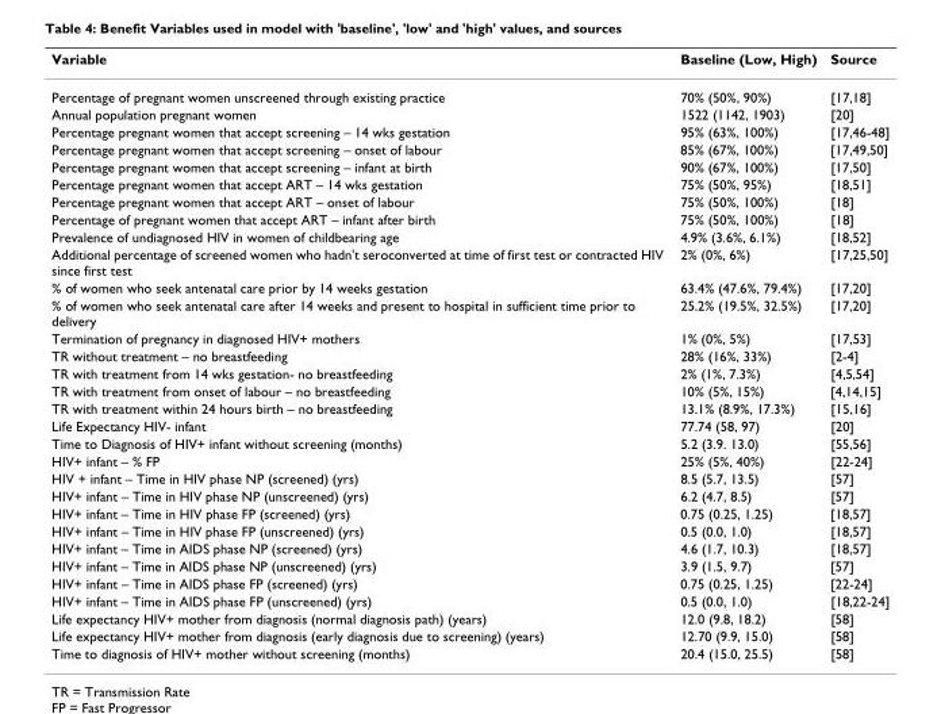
<table><thead><tr><td>Variable</td><td>Baseline (Low, High)</td><td>Source</td></tr></thead><tbody><tr><td>Percentage of pregnant women unscreened through existing practice</td><td>70% (50%, 90%)</td><td>[17,18]</td></tr><tr><td>Annual population pregnant women</td><td>1522 (1142, 1903)</td><td>[20]</td></tr><tr><td>Percentage pregnant women that accept screening – 14 wks gestation</td><td>95% (63%, 100%)</td><td>[17,46-48]</td></tr><tr><td>Percentage pregnant women that accept screening – onset of labour</td><td>85% (67%, 100%)</td><td>[17,49,50]</td></tr><tr><td>Percentage pregnant women that accept screening – infant at birth</td><td>90% (67%, 100%)</td><td>[17,50]</td></tr><tr><td>Percentage pregnant women that accept ART – 14 wks gestation</td><td>75% (50%, 95%)</td><td>[18,51]</td></tr><tr><td>Percentage pregnant women that accept ART – onset of labour</td><td>75% (50%, 100%)</td><td>[18]</td></tr><tr><td>Percentage of pregnant women that accept ART – infant after birth</td><td>75% (50%, 100%)</td><td>[18]</td></tr><tr><td>Prevalence of undiagnosed HIV in women of childbearing age</td><td>4.9% (3.6%, 6.1%)</td><td>[18,52]</td></tr><tr><td>Additional percentage of screened women who hadn&#x27;t seroconverted at time of first test or contracted HIV since first test</td><td>2% (0%, 6%)</td><td>[17,25,50]</td></tr><tr><td>% of women who seek antenatal care prior by 14 weeks gestation</td><td>63.4% (47.6%, 79.4%)</td><td>[17,20]</td></tr><tr><td>% of women who seek antenatal care after 14 weeks and present to hospital in sufficient time prior to delivery</td><td>25.2% (19.5%, 32.5%)</td><td>[17,20]</td></tr><tr><td>Termination of pregnancy in diagnosed HIV+ mothers</td><td>1% (0%, 5%)</td><td>[17,53]</td></tr><tr><td>TR without treatment – no breastfeeding</td><td>28% (16%, 33%)</td><td>[2-4]</td></tr><tr><td>TR with treatment from 14 wks gestation- no breastfeeding</td><td>2% (1%, 7.3%)</td><td>[4,5,54]</td></tr><tr><td>TR with treatment from onset of labour – no breastfeeding</td><td>10% (5%, 15%)</td><td>[4,14,15]</td></tr><tr><td>TR with treatment within 24 hours birth – no breastfeeding</td><td>13.1% (8.9%, 17.3%)</td><td>[15,16]</td></tr><tr><td>Life Expectancy HIV- infant</td><td>77.74 (58, 97)</td><td>[20]</td></tr><tr><td>Time to Diagnosis of HIV+ infant without screening (months)</td><td>5.2 (3.9. 13.0)</td><td>[55,56]</td></tr><tr><td>HIV+ infant – % FP</td><td>25% (5%, 40%)</td><td>[22-24]</td></tr><tr><td>HIV + infant – Time in HIV phase NP (screened) (yrs)</td><td>8.5 (5.7, 13.5)</td><td>[57]</td></tr><tr><td>HIV+ infant – Time in HIV phase NP (unscreened) (yrs)</td><td>6.2 (4.7, 8.5)</td><td>[57]</td></tr><tr><td>HIV+ infant – Time in HIV phase FP (screened) (yrs)</td><td>0.75 (0.25, 1.25)</td><td>[18,57]</td></tr><tr><td>HIV+ infant – Time in HIV phase FP (unscreened) (yrs)</td><td>0.5 (0.0, 1.0)</td><td>[18,57]</td></tr><tr><td>HIV+ infant – Time in AIDS phase NP (screened) (yrs)</td><td>4.6 (1.7, 10.3)</td><td>[18,57]</td></tr><tr><td>HIV+ infant – Time in AIDS phase NP (unscreened) (yrs)</td><td>3.9 (1.5, 9.7)</td><td>[57]</td></tr><tr><td>HIV+ infant – Time in AIDS phase FP (screened) (yrs)</td><td>0.75 (0.25, 1.25)</td><td>[22-24]</td></tr><tr><td>HIV+ infant – Time in AIDS phase FP (unscreened) (yrs)</td><td>0.5 (0.0, 1.0)</td><td>[18,22-24]</td></tr><tr><td>Life expectancy HIV+ mother from diagnosis (normal diagnosis path) (years)</td><td>12.0 (9.8, 18.2)</td><td>[58]</td></tr><tr><td>Life expectancy HIV+ mother from diagnosis (early diagnosis due to screening) (years)</td><td>12.70 (9.9, 15.0)</td><td>[58]</td></tr><tr><td>Time to diagnosis of HIV+ mother without screening (months)</td><td>20.4 (15.0, 25.5)</td><td>[58]</td></tr></tbody></table>